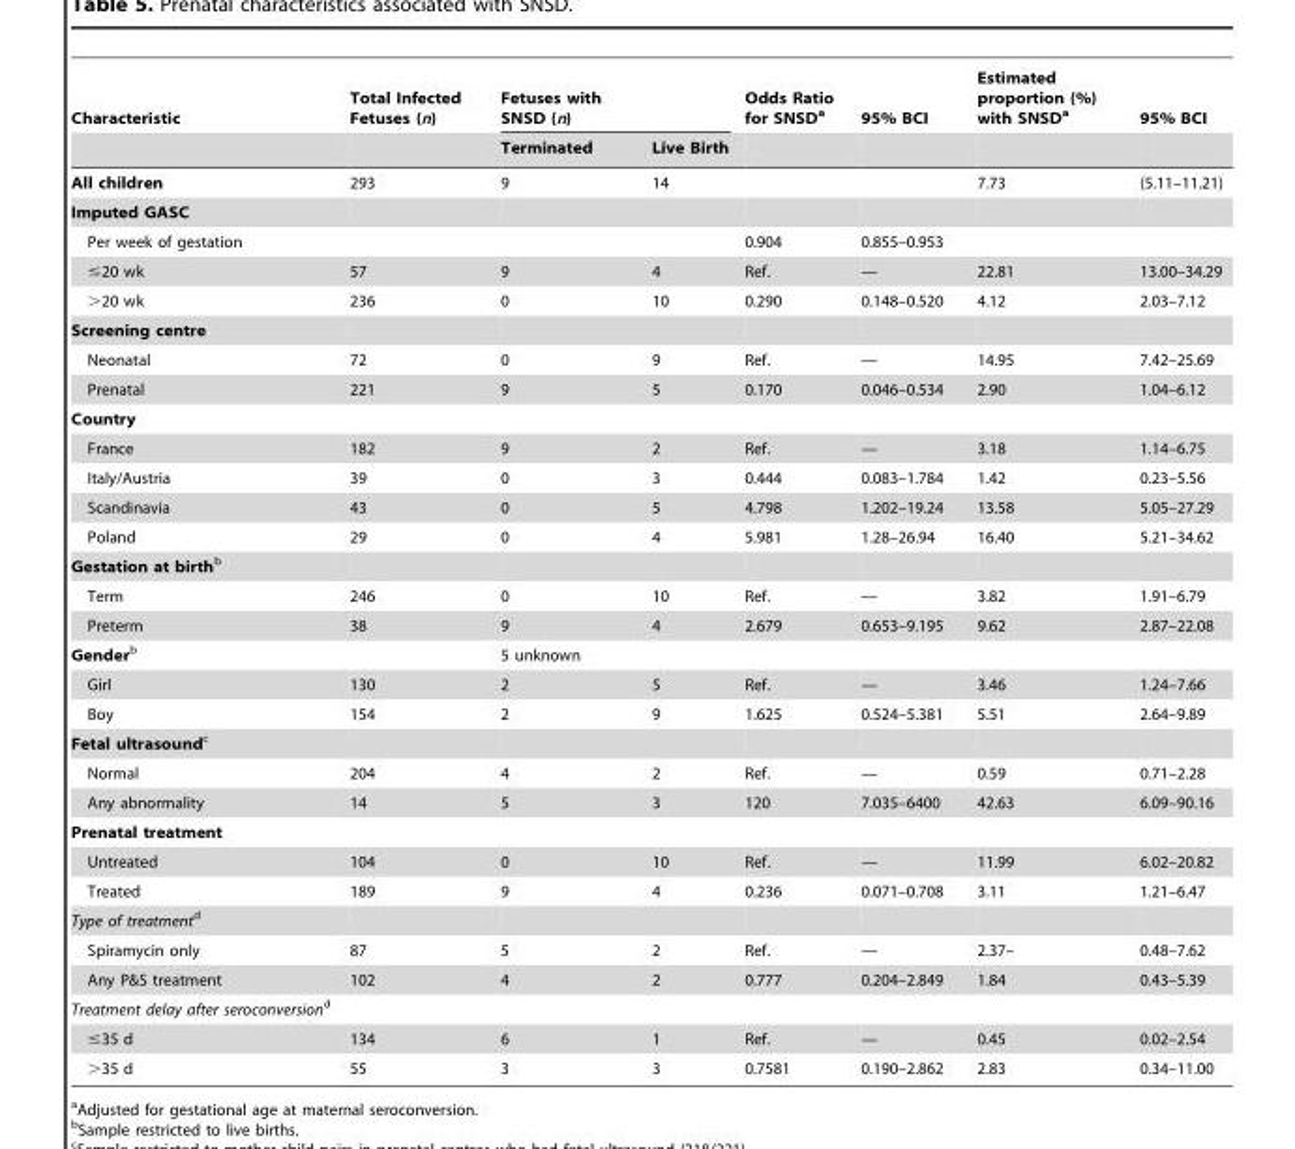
<table><thead><tr><td rowspan="2">Characteristic</td><td rowspan="2">Total Infected Fetuses (n)</td><td colspan="2">Fetuses with SNSD (n)</td><td rowspan="2">Odds Ratio for SNSD<sup>a</sup></td><td rowspan="2">95% BCI</td><td rowspan="2">Estimated proportion (%) with SNSD<sup>a</sup></td><td rowspan="2">95% BCI</td></tr><tr><td>Terminated</td><td>Live Birth</td></tr></thead><tbody><tr><td>All children</td><td>293</td><td>9</td><td>14</td><td></td><td></td><td>7.73</td><td>(5.11–11.21)</td></tr><tr><td colspan="8">Imputed GASC</td></tr><tr><td>Per week of gestation</td><td></td><td></td><td></td><td>0.904</td><td>0.855–0.953</td><td></td><td></td></tr><tr><td>≤20 wk</td><td>57</td><td>9</td><td>4</td><td>Ref.</td><td>—</td><td>22.81</td><td>13.00–34.29</td></tr><tr><td>&gt;20 wk</td><td>236</td><td>0</td><td>10</td><td>0.290</td><td>0.148–0.520</td><td>4.12</td><td>2.03–7.12</td></tr><tr><td colspan="8">Screening centre</td></tr><tr><td>Neonatal</td><td>72</td><td>0</td><td>9</td><td>Ref.</td><td>—</td><td>14.95</td><td>7.42–25.69</td></tr><tr><td>Prenatal</td><td>221</td><td>9</td><td>5</td><td>0.170</td><td>0.046–0.534</td><td>2.90</td><td>1.04–6.12</td></tr><tr><td colspan="8">Country</td></tr><tr><td>France</td><td>182</td><td>9</td><td>2</td><td>Ref.</td><td>—</td><td>3.18</td><td>1.14–6.75</td></tr><tr><td>Italy/Austria</td><td>39</td><td>0</td><td>3</td><td>0.444</td><td>0.083–1.784</td><td>1.42</td><td>0.23–5.56</td></tr><tr><td>Scandinavia</td><td>43</td><td>0</td><td>5</td><td>4.798</td><td>1.202–19.24</td><td>13.58</td><td>5.05–27.29</td></tr><tr><td>Poland</td><td>29</td><td>0</td><td>4</td><td>5.981</td><td>1.28–26.94</td><td>16.40</td><td>5.21–34.62</td></tr><tr><td colspan="8">Gestation at birthb</td></tr><tr><td>Term</td><td>246</td><td>0</td><td>10</td><td>Ref.</td><td>—</td><td>3.82</td><td>1.91–6.79</td></tr><tr><td>Preterm</td><td>38</td><td>9</td><td>4</td><td>2.679</td><td>0.653–9.195</td><td>9.62</td><td>2.87–22.08</td></tr><tr><td>Genderb</td><td></td><td>5 unknown</td><td></td><td></td><td></td><td></td><td></td></tr><tr><td>Girl</td><td>130</td><td>2</td><td>5</td><td>Ref.</td><td>—</td><td>3.46</td><td>1.24–7.66</td></tr><tr><td>Boy</td><td>154</td><td>2</td><td>9</td><td>1.625</td><td>0.524–5.381</td><td>5.51</td><td>2.64–9.89</td></tr><tr><td colspan="8">Fetal ultrasoundc</td></tr><tr><td>Normal</td><td>204</td><td>4</td><td>2</td><td>Ref.</td><td>—</td><td>0.59</td><td>0.71–2.28</td></tr><tr><td>Any abnormality</td><td>14</td><td>5</td><td>3</td><td>120</td><td>7.035–6400</td><td>42.63</td><td>6.09–90.16</td></tr><tr><td colspan="8">Prenatal treatment</td></tr><tr><td>Untreated</td><td>104</td><td>0</td><td>10</td><td>Ref.</td><td>—</td><td>11.99</td><td>6.02–20.82</td></tr><tr><td>Treated</td><td>189</td><td>9</td><td>4</td><td>0.236</td><td>0.071–0.708</td><td>3.11</td><td>1.21–6.47</td></tr><tr><td colspan="8">Type of treatmentd</td></tr><tr><td>Spiramycin only</td><td>87</td><td>5</td><td>2</td><td>Ref.</td><td>—</td><td>2.37–</td><td>0.48–7.62</td></tr><tr><td>Any P&amp;S treatment</td><td>102</td><td>4</td><td>2</td><td>0.777</td><td>0.204–2.849</td><td>1.84</td><td>0.43–5.39</td></tr><tr><td colspan="8">Treatment delay after seroconversiond</td></tr><tr><td>≤35 d</td><td>134</td><td>6</td><td>1</td><td>Ref.</td><td>—</td><td>0.45</td><td>0.02–2.54</td></tr><tr><td>&gt;35 d</td><td>55</td><td>3</td><td>3</td><td>0.7581</td><td>0.190–2.862</td><td>2.83</td><td>0.34–11.00</td></tr></tbody></table>